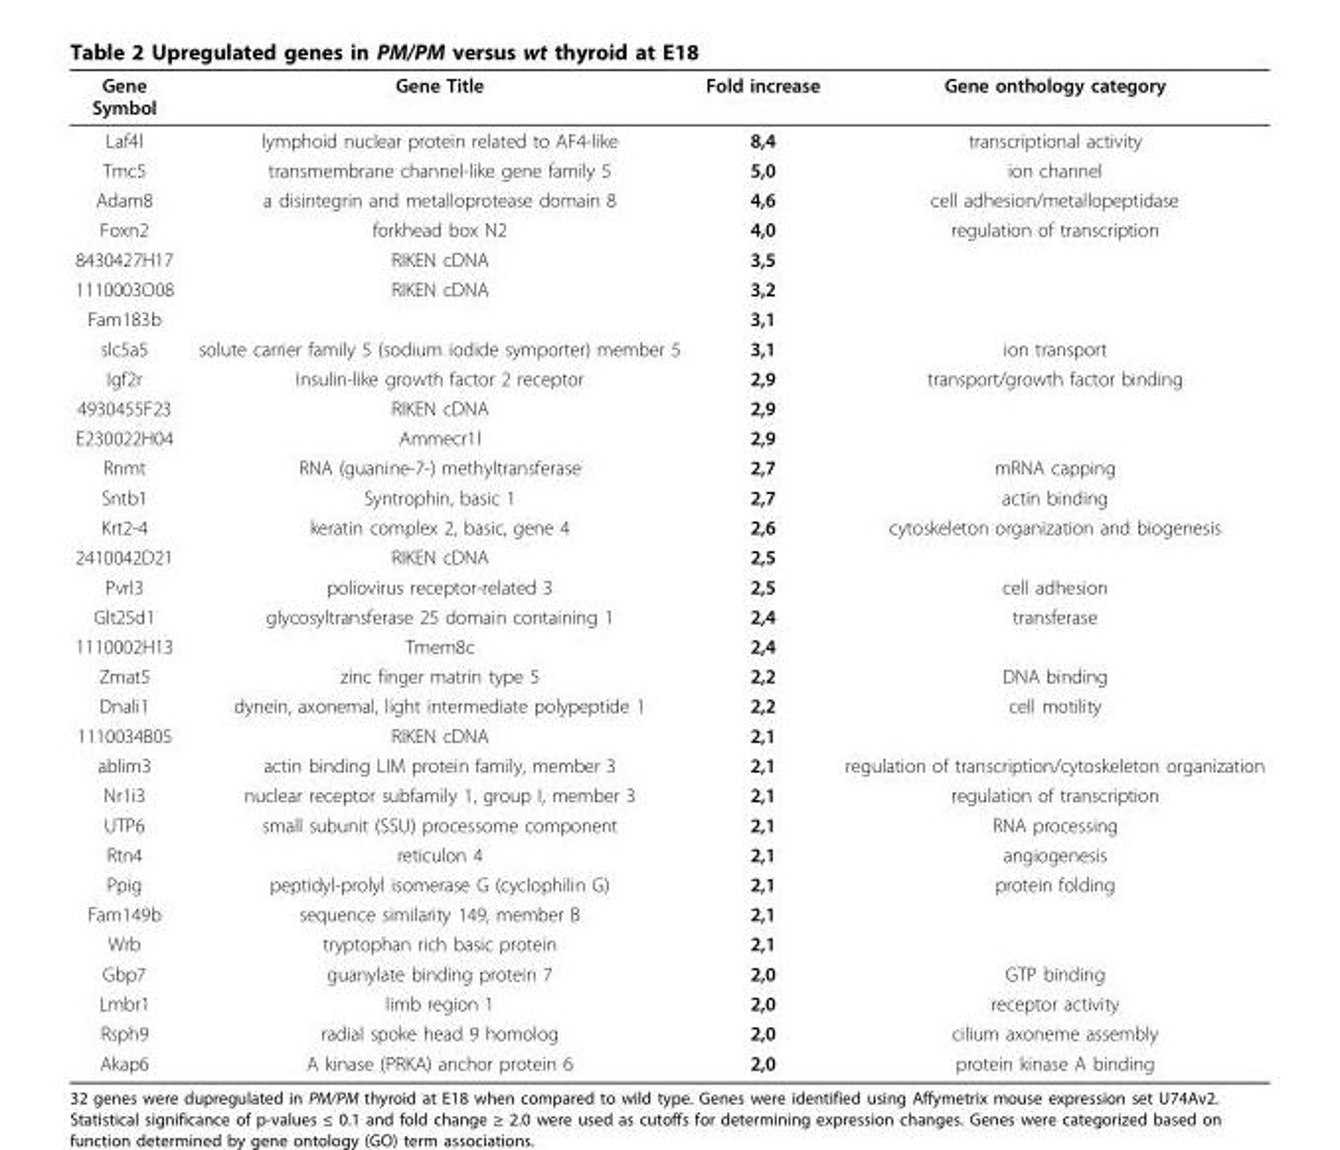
<table><thead><tr><td>Gene Symbol</td><td>Gene Title</td><td>Fold increase</td><td>Gene onthology category</td></tr></thead><tbody><tr><td>Laf4l</td><td>lymphoid nuclear protein related to AF4-like</td><td>8,4</td><td>transcriptional activity</td></tr><tr><td>Tmc5</td><td>transmembrane channel-like gene family 5</td><td>5,0</td><td>ion channel</td></tr><tr><td>Adam8</td><td>a disintegrin and metalloprotease domain 8</td><td>4,6</td><td>cell adhesion/metallopeptidase</td></tr><tr><td>Foxn2</td><td>forkhead box N2</td><td>4,0</td><td>regulation of transcription</td></tr><tr><td>8430427H17</td><td>RIKEN cDNA</td><td>3,5</td><td></td></tr><tr><td>1110003O08</td><td>RIKEN cDNA</td><td>3,2</td><td></td></tr><tr><td>Fam183b</td><td></td><td>3,1</td><td></td></tr><tr><td>slc5a5</td><td>solute carrier family 5 (sodium iodide symporter) member 5</td><td>3,1</td><td>ion transport</td></tr><tr><td>Igf2r</td><td>Insulin-like growth factor 2 receptor</td><td>2,9</td><td>transport/growth factor binding</td></tr><tr><td>4930455F23</td><td>RIKEN cDNA</td><td>2,9</td><td></td></tr><tr><td>E230022H04</td><td>Ammecr1l</td><td>2,9</td><td></td></tr><tr><td>Rnmt</td><td>RNA (guanine-7-) methyltransferase</td><td>2,7</td><td>mRNA capping</td></tr><tr><td>Sntb1</td><td>Syntrophin, basic 1</td><td>2,7</td><td>actin binding</td></tr><tr><td>Krt2-4</td><td>keratin complex 2, basic, gene 4</td><td>2,6</td><td>cytoskeleton organization and biogenesis</td></tr><tr><td>2410042D21</td><td>RIKEN cDNA</td><td>2,5</td><td></td></tr><tr><td>Pvrl3</td><td>poliovirus receptor-related 3</td><td>2,5</td><td>cell adhesion</td></tr><tr><td>Glt25d1</td><td>glycosyltransferase 25 domain containing 1</td><td>2,4</td><td>transferase</td></tr><tr><td>1110002H13</td><td>Tmem8c</td><td>2,4</td><td></td></tr><tr><td>Zmat5</td><td>zinc finger matrin type 5</td><td>2,2</td><td>DNA binding</td></tr><tr><td>Dnali1</td><td>dynein, axonemal, light intermediate polypeptide 1</td><td>2,2</td><td>cell motility</td></tr><tr><td>1110034B05</td><td>RIKEN cDNA</td><td>2,1</td><td></td></tr><tr><td>ablim3</td><td>actin binding LIM protein family, member 3</td><td>2,1</td><td>regulation of transcription/cytoskeleton organization</td></tr><tr><td>Nr1i3</td><td>nuclear receptor subfamily 1, group I, member 3</td><td>2,1</td><td>regulation of transcription</td></tr><tr><td>UTP6</td><td>small subunit (SSU) processome component</td><td>2,1</td><td>RNA processing</td></tr><tr><td>Rtn4</td><td>reticulon 4</td><td>2,1</td><td>angiogenesis</td></tr><tr><td>Ppig</td><td>peptidyl-prolyl isomerase G (cyclophilin G)</td><td>2,1</td><td>protein folding</td></tr><tr><td>Fam149b</td><td>sequence similarity 149, member B</td><td>2,1</td><td></td></tr><tr><td>Wrb</td><td>tryptophan rich basic protein</td><td>2,1</td><td></td></tr><tr><td>Gbp7</td><td>guanylate binding protein 7</td><td>2,0</td><td>GTP binding</td></tr><tr><td>Lmbr1</td><td>limb region 1</td><td>2,0</td><td>receptor activity</td></tr><tr><td>Rsph9</td><td>radial spoke head 9 homolog</td><td>2,0</td><td>cilium axoneme assembly</td></tr><tr><td>Akap6</td><td>A kinase (PRKA) anchor protein 6</td><td>2,0</td><td>protein kinase A binding</td></tr></tbody></table>